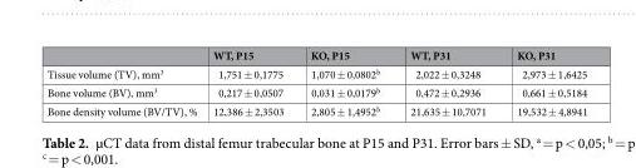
<table><thead><tr><td></td><td>WT, P15</td><td>KO, P15</td><td>WT, P31</td><td>KO, P31</td></tr></thead><tbody><tr><td>Tissue volume (TV), mm<sup>3</sup></td><td>1,751 ± 0,1775</td><td>1,070 ± 0,0802<sup>b</sup></td><td>2,022 ± 0,3248</td><td>2,973 ± 1,6425</td></tr><tr><td>Bone volume (BV), mm<sup>3</sup></td><td>0,217 ± 0,0507</td><td>0,031 ± 0,0179<sup>b</sup></td><td>0,472 ± 0,2936</td><td>0,661 ± 0,5184</td></tr><tr><td>Bone density volume (BV/TV), %</td><td>12,386 ± 2,3503</td><td>2,805 ± 1,4952<sup>b</sup></td><td>21,635 ± 10,7071</td><td>19,532 ± 4,8941</td></tr></tbody></table>